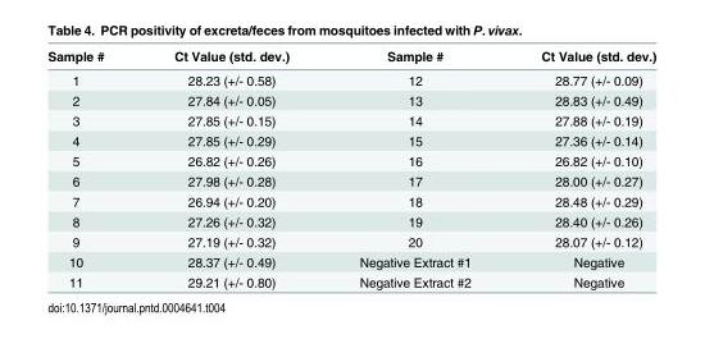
<table><thead><tr><td>Sample #</td><td>Ct Value (std. dev.)</td><td>Sample #</td><td>Ct Value (std. dev.)</td></tr></thead><tbody><tr><td>1</td><td>28.23 (+/- 0.58)</td><td>12</td><td>28.77 (+/- 0.09)</td></tr><tr><td>2</td><td>27.84 (+/- 0.05)</td><td>13</td><td>28.83 (+/- 0.49)</td></tr><tr><td>3</td><td>27.85 (+/- 0.15)</td><td>14</td><td>27.88 (+/- 0.19)</td></tr><tr><td>4</td><td>27.85 (+/- 0.29)</td><td>15</td><td>27.36 (+/- 0.14)</td></tr><tr><td>5</td><td>26.82 (+/- 0.26)</td><td>16</td><td>26.82 (+/- 0.10)</td></tr><tr><td>6</td><td>27.98 (+/- 0.28)</td><td>17</td><td>28.00 (+/- 0.27)</td></tr><tr><td>7</td><td>26.94 (+/- 0.20)</td><td>18</td><td>28.48 (+/- 0.29)</td></tr><tr><td>8</td><td>27.26 (+/- 0.32)</td><td>19</td><td>28.40 (+/- 0.26)</td></tr><tr><td>9</td><td>27.19 (+/- 0.32)</td><td>20</td><td>28.07 (+/- 0.12)</td></tr><tr><td>10</td><td>28.37 (+/- 0.49)</td><td>Negative Extract #1</td><td>Negative</td></tr><tr><td>11</td><td>29.21 (+/- 0.80)</td><td>Negative Extract #2</td><td>Negative</td></tr></tbody></table>